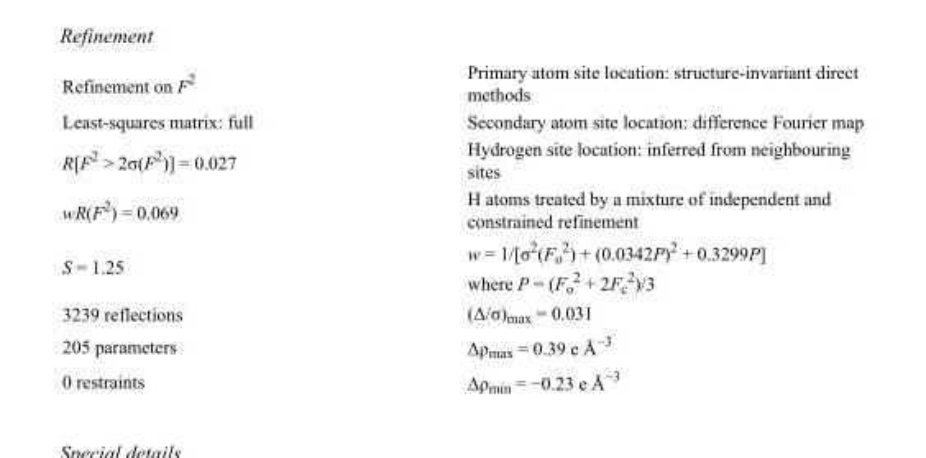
<table><tbody><tr><td>Refinement on F<sup>2</sup></td><td>Primary atom site location: structure-invariant direct methods</td></tr><tr><td>Least-squares matrix: full</td><td>Secondary atom site location: difference Fourier map</td></tr><tr><td>R[F<sup>2</sup> &gt; 2σ(F<sup>2</sup>)] = 0.027</td><td>Hydrogen site location: inferred from neighbouring sites</td></tr><tr><td>wR(F<sup>2</sup>) = 0.069</td><td>H atoms treated by a mixture of independent and constrained refinement</td></tr><tr><td>S = 1.25</td><td>w = 1/[σ<sup>2</sup>(F<sub>o</sub> <sup>2</sup>) + (0.0342P)<sup>2</sup> + 0.3299P] where P = (F<sub>o</sub> <sup>2</sup> + 2F<sub>c</sub> <sup>2</sup>)/3</td></tr><tr><td>3239 reflections</td><td>(Δ/σ)<sub>max</sub> = 0.031</td></tr><tr><td>205 parameters</td><td>Δρ<sub>max</sub> = 0.39 e Å<sup>−3</sup></td></tr><tr><td>0 restraints</td><td>Δρ<sub>min</sub> = −0.23 e Å<sup>−3</sup></td></tr></tbody></table>